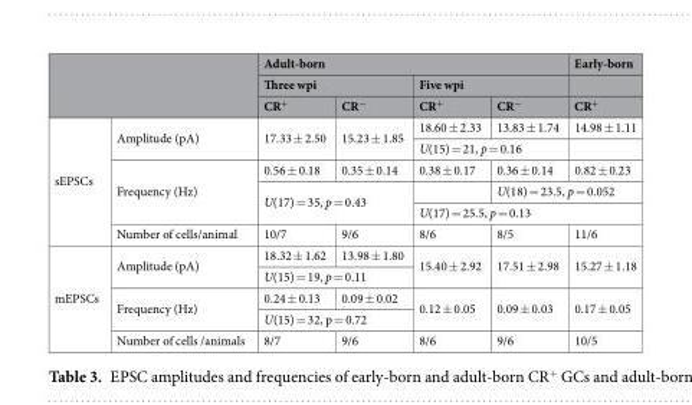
<table><thead><tr><td rowspan="3"></td><td rowspan="3"></td><td colspan="4">Adult-born</td><td rowspan="3">Early-born CR<sup>+</sup></td></tr><tr><td colspan="2">Three wpi</td><td colspan="2">Five wpi</td></tr><tr><td>CR<sup>+</sup></td><td>CR<sup>−</sup></td><td>CR<sup>+</sup></td><td>CR<sup>−</sup></td></tr></thead><tbody><tr><td rowspan="6">sEPSCs</td><td rowspan="2">Amplitude (pA)</td><td rowspan="2">17.33 ± 2.50</td><td rowspan="2">15.23 ± 1.85</td><td>18.60 ± 2.33</td><td>13.83 ± 1.74</td><td>14.98 ± 1.11</td></tr><tr><td colspan="2">U(15) = 21, p = 0.16</td><td></td></tr><tr><td rowspan="3">Frequency (Hz)</td><td>0.56 ± 0.18</td><td>0.35 ± 0.14</td><td>0.38 ± 0.17</td><td>0.36 ± 0.14</td><td>0.82 ± 0.23</td></tr><tr><td rowspan="2" colspan="2">U(17) = 35, p = 0.43</td><td></td><td colspan="2">U(18) = 23.5, p = 0.052</td></tr><tr><td colspan="3">U(17) = 25.5, p = 0.13</td></tr><tr><td>Number of cells/animal</td><td>10/7</td><td>9/6</td><td>8/6</td><td>8/5</td><td>11/6</td></tr><tr><td rowspan="5">mEPSCs</td><td rowspan="2">Amplitude (pA)</td><td>18.32 ± 1.62</td><td>13.98 ± 1.80</td><td rowspan="2">15.40 ± 2.92</td><td rowspan="2">17.51 ± 2.98</td><td rowspan="2">15.27 ± 1.18</td></tr><tr><td colspan="2">U(15) = 19, p = 0.11</td></tr><tr><td rowspan="2">Frequency (Hz)</td><td>0.24 ± 0.13</td><td>0.09 ± 0.02</td><td rowspan="2">0.12 ± 0.05</td><td rowspan="2">0.09 ± 0.03</td><td rowspan="2">0.17 ± 0.05</td></tr><tr><td colspan="2">U(15) = 32, p = 0.72</td></tr><tr><td>Number of cells /animals</td><td>8/7</td><td>9/6</td><td>8/6</td><td>9/6</td><td>10/5</td></tr></tbody></table>